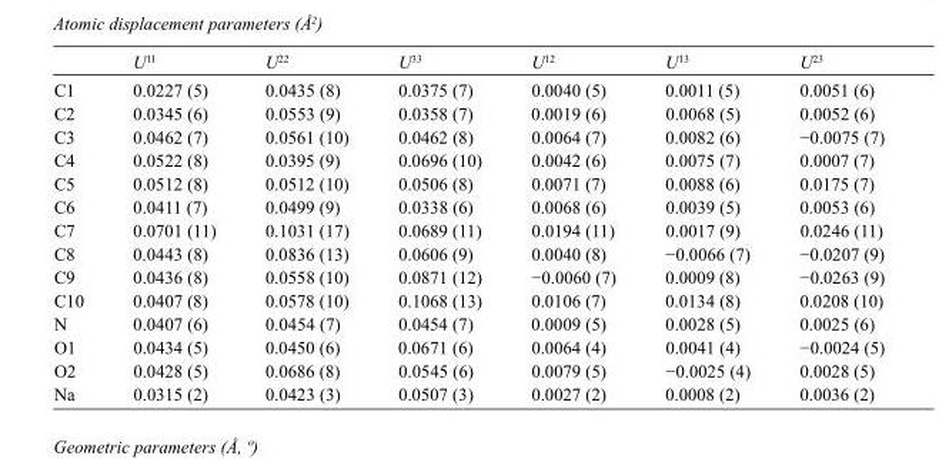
<table><thead><tr><td></td><td>U<sup>11</sup></td><td>U<sup>22</sup></td><td>U<sup>33</sup></td><td>U<sup>12</sup></td><td>U<sup>13</sup></td><td>U<sup>23</sup></td></tr></thead><tbody><tr><td>C1</td><td>0.0227 (5)</td><td>0.0435 (8)</td><td>0.0375 (7)</td><td>0.0040 (5)</td><td>0.0011 (5)</td><td>0.0051 (6)</td></tr><tr><td>C2</td><td>0.0345 (6)</td><td>0.0553 (9)</td><td>0.0358 (7)</td><td>0.0019 (6)</td><td>0.0068 (5)</td><td>0.0052 (6)</td></tr><tr><td>C3</td><td>0.0462 (7)</td><td>0.0561 (10)</td><td>0.0462 (8)</td><td>0.0064 (7)</td><td>0.0082 (6)</td><td>−0.0075 (7)</td></tr><tr><td>C4</td><td>0.0522 (8)</td><td>0.0395 (9)</td><td>0.0696 (10)</td><td>0.0042 (6)</td><td>0.0075 (7)</td><td>0.0007 (7)</td></tr><tr><td>C5</td><td>0.0512 (8)</td><td>0.0512 (10)</td><td>0.0506 (8)</td><td>0.0071 (7)</td><td>0.0088 (6)</td><td>0.0175 (7)</td></tr><tr><td>C6</td><td>0.0411 (7)</td><td>0.0499 (9)</td><td>0.0338 (6)</td><td>0.0068 (6)</td><td>0.0039 (5)</td><td>0.0053 (6)</td></tr><tr><td>C7</td><td>0.0701 (11)</td><td>0.1031 (17)</td><td>0.0689 (11)</td><td>0.0194 (11)</td><td>0.0017 (9)</td><td>0.0246 (11)</td></tr><tr><td>C8</td><td>0.0443 (8)</td><td>0.0836 (13)</td><td>0.0606 (9)</td><td>0.0040 (8)</td><td>−0.0066 (7)</td><td>−0.0207 (9)</td></tr><tr><td>C9</td><td>0.0436 (8)</td><td>0.0558 (10)</td><td>0.0871 (12)</td><td>−0.0060 (7)</td><td>0.0009 (8)</td><td>−0.0263 (9)</td></tr><tr><td>C10</td><td>0.0407 (8)</td><td>0.0578 (10)</td><td>0.1068 (13)</td><td>0.0106 (7)</td><td>0.0134 (8)</td><td>0.0208 (10)</td></tr><tr><td>N</td><td>0.0407 (6)</td><td>0.0454 (7)</td><td>0.0454 (7)</td><td>0.0009 (5)</td><td>0.0028 (5)</td><td>0.0025 (6)</td></tr><tr><td>O1</td><td>0.0434 (5)</td><td>0.0450 (6)</td><td>0.0671 (6)</td><td>0.0064 (4)</td><td>0.0041 (4)</td><td>−0.0024 (5)</td></tr><tr><td>O2</td><td>0.0428 (5)</td><td>0.0686 (8)</td><td>0.0545 (6)</td><td>0.0079 (5)</td><td>−0.0025 (4)</td><td>0.0028 (5)</td></tr><tr><td>Na</td><td>0.0315 (2)</td><td>0.0423 (3)</td><td>0.0507 (3)</td><td>0.0027 (2)</td><td>0.0008 (2)</td><td>0.0036 (2)</td></tr></tbody></table>